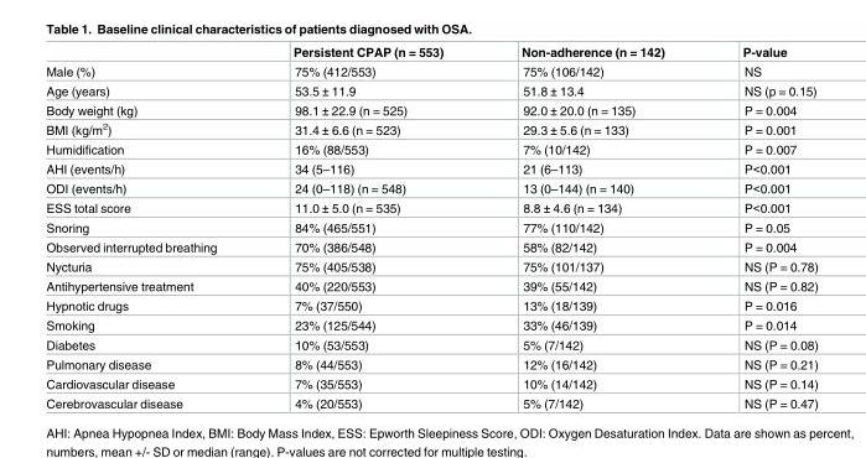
<table><thead><tr><td></td><td>Persistent CPAP (n = 553)</td><td>Non-adherence (n = 142)</td><td>P-value</td></tr></thead><tbody><tr><td>Male (%)</td><td>75% (412/553)</td><td>75% (106/142)</td><td>NS</td></tr><tr><td>Age (years)</td><td>53.5 ± 11.9</td><td>51.8 ± 13.4</td><td>NS (p = 0.15)</td></tr><tr><td>Body weight (kg)</td><td>98.1 ± 22.9 (n = 525)</td><td>92.0 ± 20.0 (n = 135)</td><td>P = 0.004</td></tr><tr><td>BMI (kg/m<sup>2</sup>)</td><td>31.4 ± 6.6 (n = 523)</td><td>29.3 ± 5.6 (n = 133)</td><td>P = 0.001</td></tr><tr><td>Humidification</td><td>16% (88/553)</td><td>7% (10/142)</td><td>P = 0.007</td></tr><tr><td>AHI (events/h)</td><td>34 (5–116)</td><td>21 (6–113)</td><td>P&lt;0.001</td></tr><tr><td>ODI (events/h)</td><td>24 (0–118) (n = 548)</td><td>13 (0–144) (n = 140)</td><td>P&lt;0.001</td></tr><tr><td>ESS total score</td><td>11.0 ± 5.0 (n = 535)</td><td>8.8 ± 4.6 (n = 134)</td><td>P&lt;0.001</td></tr><tr><td>Snoring</td><td>84% (465/551)</td><td>77% (110/142)</td><td>P = 0.05</td></tr><tr><td>Observed interrupted breathing</td><td>70% (386/548)</td><td>58% (82/142)</td><td>P = 0.004</td></tr><tr><td>Nycturia</td><td>75% (405/538)</td><td>75% (101/137)</td><td>NS (P = 0.78)</td></tr><tr><td>Antihypertensive treatment</td><td>40% (220/553)</td><td>39% (55/142)</td><td>NS (P = 0.82)</td></tr><tr><td>Hypnotic drugs</td><td>7% (37/550)</td><td>13% (18/139)</td><td>P = 0.016</td></tr><tr><td>Smoking</td><td>23% (125/544)</td><td>33% (46/139)</td><td>P = 0.014</td></tr><tr><td>Diabetes</td><td>10% (53/553)</td><td>5% (7/142)</td><td>NS (P = 0.08)</td></tr><tr><td>Pulmonary disease</td><td>8% (44/553)</td><td>12% (16/142)</td><td>NS (P = 0.21)</td></tr><tr><td>Cardiovascular disease</td><td>7% (35/553)</td><td>10% (14/142)</td><td>NS (P = 0.14)</td></tr><tr><td>Cerebrovascular disease</td><td>4% (20/553)</td><td>5% (7/142)</td><td>NS (P = 0.47)</td></tr></tbody></table>